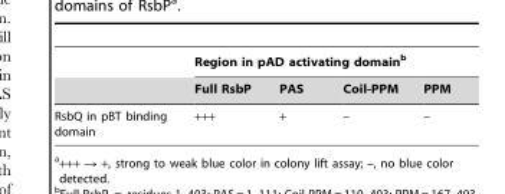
<table><thead><tr><td rowspan="2"></td><td colspan="4">Region in pAD activating domain<sup>b</sup></td></tr><tr><td>Full RsbP</td><td>PAS</td><td>Coil-PPM</td><td>PPM</td></tr></thead><tbody><tr><td>RsbQ in pBT binding domain</td><td>+++</td><td>+</td><td>–</td><td>–</td></tr></tbody></table>